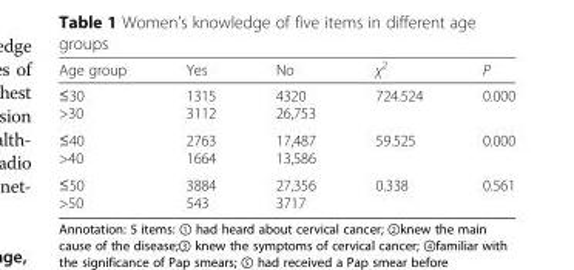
<table><thead><tr><td>Age group</td><td>Yes</td><td>No</td><td>χ<sup>2</sup></td><td>P</td></tr></thead><tbody><tr><td>≤30 &gt;30</td><td>1315 3112</td><td>4320 26,753</td><td>724.524</td><td>0.000</td></tr><tr><td>≤40 &gt;40</td><td>2763 1664</td><td>17,487 13,586</td><td>59.525</td><td>0.000</td></tr><tr><td>≤50 &gt;50</td><td>3884 543</td><td>27,356 3717</td><td>0.338</td><td>0.561</td></tr></tbody></table>